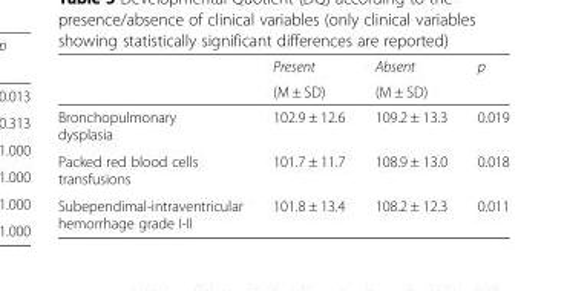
<table><thead><tr><td rowspan="2"></td><td rowspan="2">Present (M ± SD)</td><td rowspan="2">Absent (M ± SD)</td><td rowspan="2">p</td></tr><tr></tr></thead><tbody><tr><td>Bronchopulmonary dysplasia</td><td>102.9 ± 12.6</td><td>109.2 ± 13.3</td><td>0.019</td></tr><tr><td>Packed red blood cells transfusions</td><td>101.7 ± 11.7</td><td>108.9 ± 13.0</td><td>0.018</td></tr><tr><td>Subependimal-intraventricular hemorrhage grade I-II</td><td>101.8 ± 13.4</td><td>108.2 ± 12.3</td><td>0.011</td></tr></tbody></table>